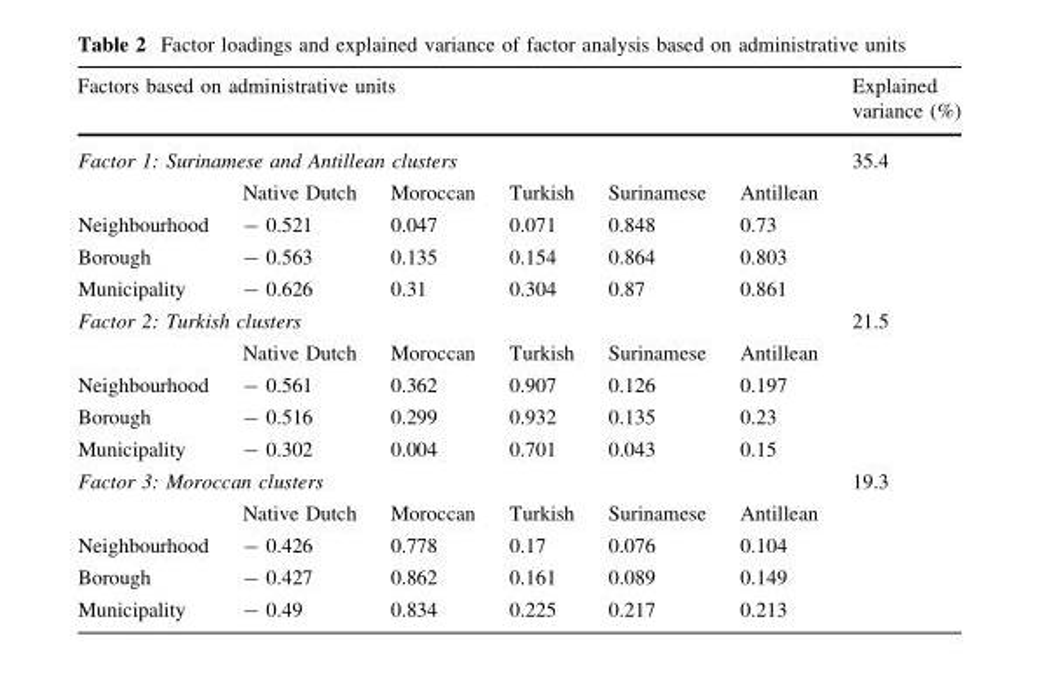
<table><thead><tr><td rowspan="2" colspan="6">Factors based on administrative units Factor 1: Surinamese and Antillean clusters</td><td rowspan="3">Explained variance (%) 35.4</td></tr><tr></tr><tr><td></td><td>Native Dutch</td><td>Moroccan</td><td>Turkish</td><td>Surinamese</td><td>Antillean</td></tr></thead><tbody><tr><td>Neighbourhood</td><td>- 0.521</td><td>0.047</td><td>0.071</td><td>0.848</td><td>0.73</td><td></td></tr><tr><td>Borough</td><td>- 0.563</td><td>0.135</td><td>0.154</td><td>0.864</td><td>0.803</td><td></td></tr><tr><td>Municipality</td><td>- 0.626</td><td>0.31</td><td>0.304</td><td>0.87</td><td>0.861</td><td></td></tr><tr><td colspan="6">Factor 2: Turkish clusters</td><td>21.5</td></tr><tr><td></td><td>Native Dutch</td><td>Moroccan</td><td>Turkish</td><td>Surinamese</td><td>Antillean</td><td></td></tr><tr><td>Neighbourhood</td><td>- 0.561</td><td>0.362</td><td>0.907</td><td>0.126</td><td>0.197</td><td></td></tr><tr><td>Borough</td><td>- 0.516</td><td>0.299</td><td>0.932</td><td>0.135</td><td>0.23</td><td></td></tr><tr><td>Municipality</td><td>- 0.302</td><td>0.004</td><td>0.701</td><td>0.043</td><td>0.15</td><td></td></tr><tr><td colspan="6">Factor 3: Moroccan clusters</td><td>19.3</td></tr><tr><td></td><td>Native Dutch</td><td>Moroccan</td><td>Turkish</td><td>Surinamese</td><td>Antillean</td><td></td></tr><tr><td>Neighbourhood</td><td>- 0.426</td><td>0.778</td><td>0.17</td><td>0.076</td><td>0.104</td><td></td></tr><tr><td>Borough</td><td>- 0.427</td><td>0.862</td><td>0.161</td><td>0.089</td><td>0.149</td><td></td></tr><tr><td>Municipality</td><td>- 0.49</td><td>0.834</td><td>0.225</td><td>0.217</td><td>0.213</td><td></td></tr></tbody></table>